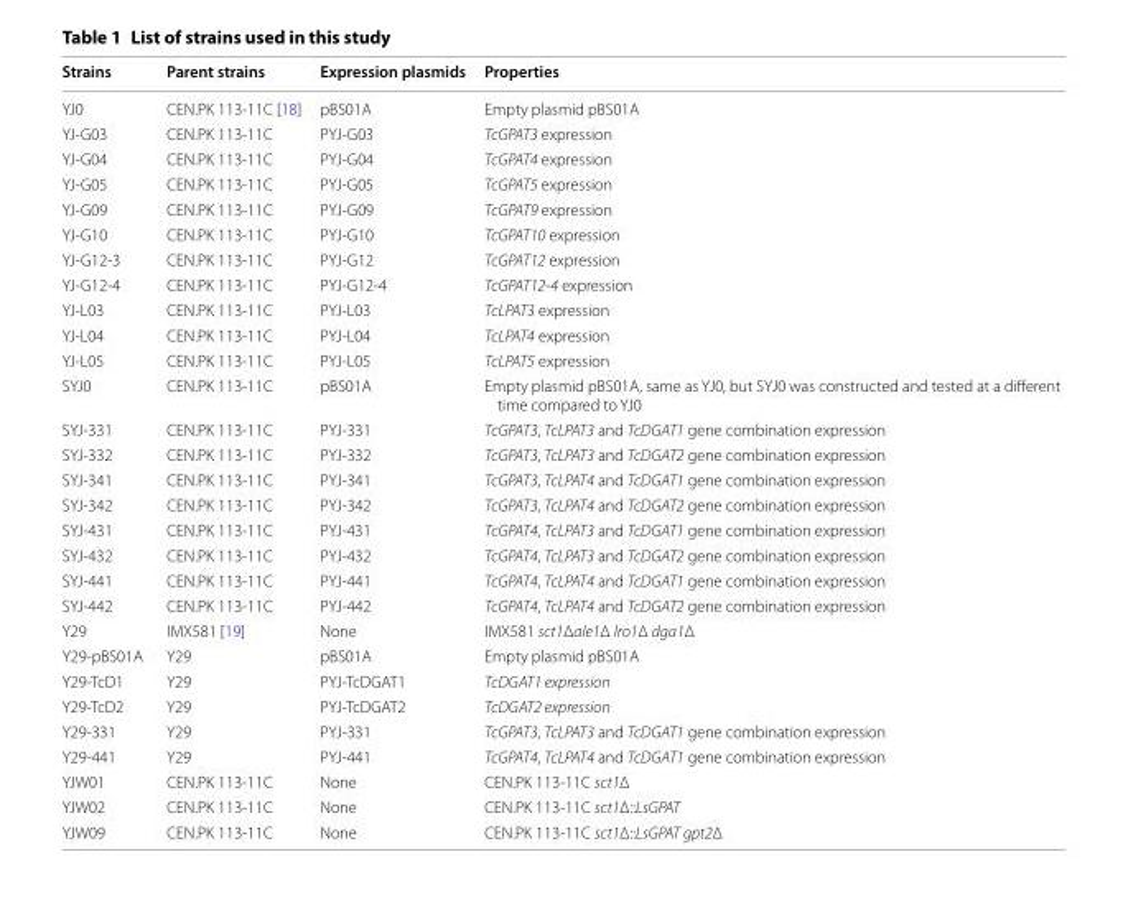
<table><thead><tr><td>Strains</td><td>Parent strains</td><td>Expression plasmids</td><td>Properties</td></tr></thead><tbody><tr><td>YJ0</td><td>CEN.PK 113-11C [18]</td><td>pBS01A</td><td>Empty plasmid pBS01A</td></tr><tr><td>YJ-G03</td><td>CEN.PK 113-11C</td><td>PYJ-G03</td><td>TcGPAT3 expression</td></tr><tr><td>YJ-G04</td><td>CEN.PK 113-11C</td><td>PYJ-G04</td><td>TcGPAT4 expression</td></tr><tr><td>YJ-G05</td><td>CEN.PK 113-11C</td><td>PYJ-G05</td><td>TcGPAT5 expression</td></tr><tr><td>YJ-G09</td><td>CEN.PK 113-11C</td><td>PYJ-G09</td><td>TcGPAT9 expression</td></tr><tr><td>YJ-G10</td><td>CEN.PK 113-11C</td><td>PYJ-G10</td><td>TcGPAT10 expression</td></tr><tr><td>YJ-G12-3</td><td>CEN.PK 113-11C</td><td>PYJ-G12</td><td>TcGPAT12 expression</td></tr><tr><td>YJ-G12-4</td><td>CEN.PK 113-11C</td><td>PYJ-G12-4</td><td>TcGPAT12-4 expression</td></tr><tr><td>YJ-L03</td><td>CEN.PK 113-11C</td><td>PYJ-L03</td><td>TcLPAT3 expression</td></tr><tr><td>YJ-L04</td><td>CEN.PK 113-11C</td><td>PYJ-L04</td><td>TcLPAT4 expression</td></tr><tr><td>YJ-L05</td><td>CEN.PK 113-11C</td><td>PYJ-L05</td><td>TcLPAT5 expression</td></tr><tr><td>SYJ0</td><td>CEN.PK 113-11C</td><td>pBS01A</td><td>Empty plasmid pBS01A, same as YJ0, but SYJ0 was constructed and tested at a different time compared to YJ0</td></tr><tr><td>SYJ-331</td><td>CEN.PK 113-11C</td><td>PYJ-331</td><td>TcGPAT3, TcLPAT3 and TcDGAT1 gene combination expression</td></tr><tr><td>SYJ-332</td><td>CEN.PK 113-11C</td><td>PYJ-332</td><td>TcGPAT3, TcLPAT3 and TcDGAT2 gene combination expression</td></tr><tr><td>SYJ-341</td><td>CEN.PK 113-11C</td><td>PYJ-341</td><td>TcGPAT3, TcLPAT4 and TcDGAT1 gene combination expression</td></tr><tr><td>SYJ-342</td><td>CEN.PK 113-11C</td><td>PYJ-342</td><td>TcGPAT3, TcLPAT4 and TcDGAT2 gene combination expression</td></tr><tr><td>SYJ-431</td><td>CEN.PK 113-11C</td><td>PYJ-431</td><td>TcGPAT4, TcLPAT3 and TcDGAT1 gene combination expression</td></tr><tr><td>SYJ-432</td><td>CEN.PK 113-11C</td><td>PYJ-432</td><td>TcGPAT4, TcLPAT3 and TcDGAT2 gene combination expression</td></tr><tr><td>SYJ-441</td><td>CEN.PK 113-11C</td><td>PYJ-441</td><td>TcGPAT4, TcLPAT4 and TcDGAT1 gene combination expression</td></tr><tr><td>SYJ-442</td><td>CEN.PK 113-11C</td><td>PYJ-442</td><td>TcGPAT4, TcLPAT4 and TcDGAT2 gene combination expression</td></tr><tr><td>Y29</td><td>IMX581 [19]</td><td>None</td><td>IMX581 sct1Δale1Δ lro1Δ dga1Δ</td></tr><tr><td>Y29-pBS01A</td><td>Y29</td><td>pBS01A</td><td>Empty plasmid pBS01A</td></tr><tr><td>Y29-TcD1</td><td>Y29</td><td>PYJ-TcDGAT1</td><td>TcDGAT1 expression</td></tr><tr><td>Y29-TcD2</td><td>Y29</td><td>PYJ-TcDGAT2</td><td>TcDGAT2 expression</td></tr><tr><td>Y29-331</td><td>Y29</td><td>PYJ-331</td><td>TcGPAT3, TcLPAT3 and TcDGAT1 gene combination expression</td></tr><tr><td>Y29-441</td><td>Y29</td><td>PYJ-441</td><td>TcGPAT4, TcLPAT4 and TcDGAT1 gene combination expression</td></tr><tr><td>YJW01</td><td>CEN.PK 113-11C</td><td>None</td><td>CEN.PK 113-11C sct1Δ</td></tr><tr><td>YJW02</td><td>CEN.PK 113-11C</td><td>None</td><td>CEN.PK 113-11C sct1Δ::LsGPAT</td></tr><tr><td>YJW09</td><td>CEN.PK 113-11C</td><td>None</td><td>CEN.PK 113-11C sct1Δ::LsGPAT gpt2Δ</td></tr></tbody></table>